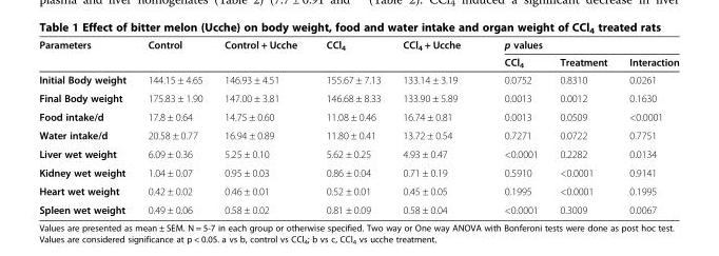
<table><thead><tr><td rowspan="2">Parameters</td><td rowspan="2">Control</td><td rowspan="2">Control + Ucche</td><td rowspan="2">CCl<sub>4</sub></td><td rowspan="2">CCl<sub>4</sub> + Ucche</td><td colspan="3">p values</td></tr><tr><td>CCl<sub>4</sub></td><td>Treatment</td><td>Interaction</td></tr></thead><tbody><tr><td>Initial Body weight</td><td>144.15 ± 4.65</td><td>146.93 ± 4.51</td><td>155.67 ± 7.13</td><td>133.14 ± 3.19</td><td>0.0752</td><td>0.8310</td><td>0.0261</td></tr><tr><td>Final Body weight</td><td>175.83 ± 1.90</td><td>147.00 ± 3.81</td><td>146.68 ± 8.33</td><td>133.90 ± 5.89</td><td>0.0013</td><td>0.0012</td><td>0.1630</td></tr><tr><td>Food intake/d</td><td>17.8 ± 0.64</td><td>14.75 ± 0.60</td><td>11.08 ± 0.46</td><td>16.74 ± 0.81</td><td>0.0013</td><td>0.0509</td><td>&lt;0.0001</td></tr><tr><td>Water intake/d</td><td>20.58 ± 0.77</td><td>16.94 ± 0.89</td><td>11.80 ± 0.41</td><td>13.72 ± 0.54</td><td>0.7271</td><td>0.0722</td><td>0.7751</td></tr><tr><td>Liver wet weight</td><td>6.09 ± 0.36</td><td>5.25 ± 0.10</td><td>5.62 ± 0.25</td><td>4.93 ± 0.47</td><td>&lt;0.0001</td><td>0.2282</td><td>0.0134</td></tr><tr><td>Kidney wet weight</td><td>1.04 ± 0.07</td><td>0.95 ± 0.03</td><td>0.86 ± 0.04</td><td>0.71 ± 0.19</td><td>0.5910</td><td>&lt;0.0001</td><td>0.9141</td></tr><tr><td>Heart wet weight</td><td>0.42 ± 0.02</td><td>0.46 ± 0.01</td><td>0.52 ± 0.01</td><td>0.45 ± 0.05</td><td>0.1995</td><td>&lt;0.0001</td><td>0.1995</td></tr><tr><td>Spleen wet weight</td><td>0.49 ± 0.06</td><td>0.58 ± 0.02</td><td>0.81 ± 0.09</td><td>0.58 ± 0.04</td><td>&lt;0.0001</td><td>0.3009</td><td>0.0067</td></tr></tbody></table>